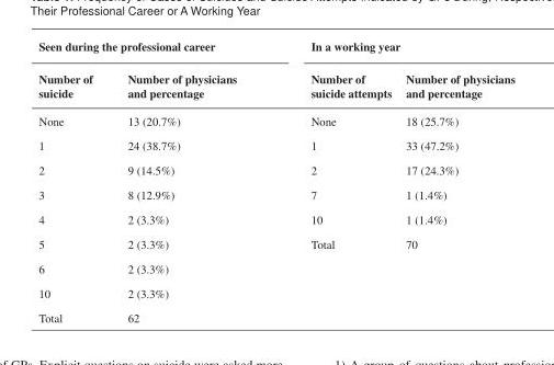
<table><thead><tr><td colspan="2">Seen during the professional career</td><td colspan="2">In a working year</td></tr><tr><td>Number of suicide</td><td>Number of physicians and percentage</td><td>Number of suicide attempts</td><td>Number of physicians and percentage</td></tr></thead><tbody><tr><td>None</td><td>13 (20.7%)</td><td>None</td><td>18 (25.7%)</td></tr><tr><td>1</td><td>24 (38.7%)</td><td>1</td><td>33 (47.2%)</td></tr><tr><td>2</td><td>9 (14.5%)</td><td>2</td><td>17 (24.3%)</td></tr><tr><td>3</td><td>8 (12.9%)</td><td>7</td><td>1 (1.4%)</td></tr><tr><td>4</td><td>2 (3.3%)</td><td>10</td><td>1 (1.4%)</td></tr><tr><td>5</td><td>2 (3.3%)</td><td>Total</td><td>70</td></tr><tr><td>6</td><td>2 (3.3%)</td><td></td><td></td></tr><tr><td>10</td><td>2 (3.3%)</td><td></td><td></td></tr><tr><td>Total</td><td>62</td><td></td><td></td></tr></tbody></table>